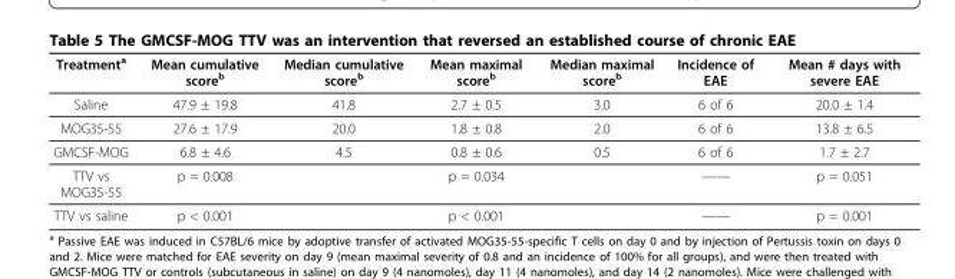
<table><thead><tr><td>Treatment<sup>a</sup></td><td>Mean cumulative score<sup>b</sup></td><td>Median cumulative score<sup>b</sup></td><td>Mean maximal score<sup>b</sup></td><td>Median maximal score<sup>b</sup></td><td>Incidence of EAE</td><td>Mean # days with severe EAE</td></tr></thead><tbody><tr><td>Saline</td><td>47.9 ± 19.8</td><td>41.8</td><td>2.7 ± 0.5</td><td>3.0</td><td>6 of 6</td><td>20.0 ± 1.4</td></tr><tr><td>MOG35-55</td><td>27.6 ± 17.9</td><td>20.0</td><td>1.8 ± 0.8</td><td>2.0</td><td>6 of 6</td><td>13.8 ± 6.5</td></tr><tr><td>GMCSF-MOG</td><td>6.8 ± 4.6</td><td>4.5</td><td>0.8 ± 0.6</td><td>0.5</td><td>6 of 6</td><td>1.7 ± 2.7</td></tr><tr><td>TTV vs MOG35-55</td><td>p = 0.008</td><td></td><td>p = 0.034</td><td></td><td>——</td><td>p = 0.051</td></tr><tr><td>TTV vs saline</td><td>p &lt; 0.001</td><td></td><td>p &lt; 0.001</td><td></td><td>——</td><td>p = 0.001</td></tr></tbody></table>